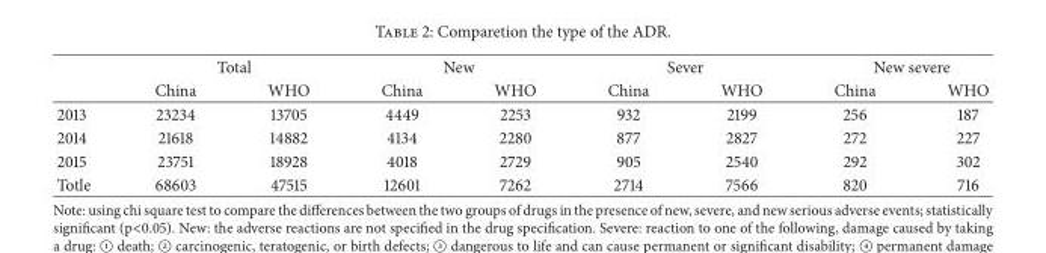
<table><thead><tr><td rowspan="2"></td><td colspan="2">Total</td><td colspan="2">New</td><td colspan="2">Sever</td><td colspan="2">New severe</td></tr><tr><td>China</td><td>WHO</td><td>China</td><td>WHO</td><td>China</td><td>WHO</td><td>China</td><td>WHO</td></tr></thead><tbody><tr><td>2013</td><td>23234</td><td>13705</td><td>4449</td><td>2253</td><td>932</td><td>2199</td><td>256</td><td>187</td></tr><tr><td>2014</td><td>21618</td><td>14882</td><td>4134</td><td>2280</td><td>877</td><td>2827</td><td>272</td><td>227</td></tr><tr><td>2015</td><td>23751</td><td>18928</td><td>4018</td><td>2729</td><td>905</td><td>2540</td><td>292</td><td>302</td></tr><tr><td>Totle</td><td>68603</td><td>47515</td><td>12601</td><td>7262</td><td>2714</td><td>7566</td><td>820</td><td>716</td></tr></tbody></table>